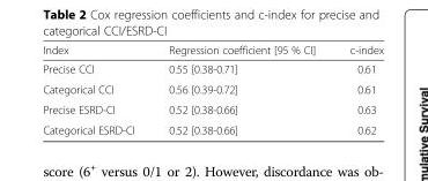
<table><thead><tr><td>Index</td><td>Regression coefficient [95 % CI]</td><td>c-index</td></tr></thead><tbody><tr><td>Precise CCI</td><td>0.55 [0.38-0.71]</td><td>0.61</td></tr><tr><td>Categorical CCI</td><td>0.56 [0.39-0.72]</td><td>0.61</td></tr><tr><td>Precise ESRD-CI</td><td>0.52 [0.38-0.66]</td><td>0.63</td></tr><tr><td>Categorical ESRD-CI</td><td>0.52 [0.38-0.66]</td><td>0.62</td></tr></tbody></table>